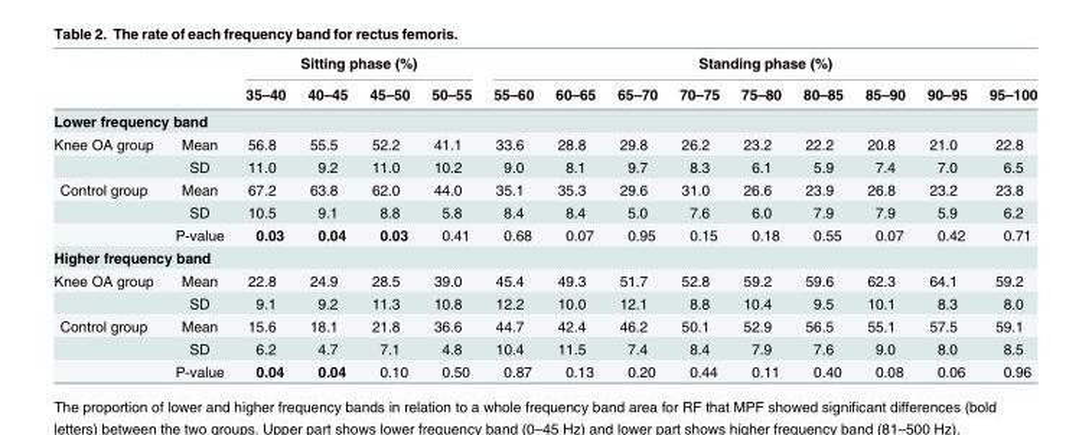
<table><thead><tr><td rowspan="2"></td><td rowspan="2"></td><td colspan="4">Sitting phase (%)</td><td colspan="9">Standing phase (%)</td></tr><tr><td>35–40</td><td>40–45</td><td>45–50</td><td>50–55</td><td>55–60</td><td>60–65</td><td>65–70</td><td>70–75</td><td>75–80</td><td>80–85</td><td>85–90</td><td>90–95</td><td>95–100</td></tr></thead><tbody><tr><td colspan="15">Lower frequency band</td></tr><tr><td rowspan="2">Knee OA group</td><td>Mean</td><td>56.8</td><td>55.5</td><td>52.2</td><td>41.1</td><td>33.6</td><td>28.8</td><td>29.8</td><td>26.2</td><td>23.2</td><td>22.2</td><td>20.8</td><td>21.0</td><td>22.8</td></tr><tr><td>SD</td><td>11.0</td><td>9.2</td><td>11.0</td><td>10.2</td><td>9.0</td><td>8.1</td><td>9.7</td><td>8.3</td><td>6.1</td><td>5.9</td><td>7.4</td><td>7.0</td><td>6.5</td></tr><tr><td rowspan="3">Control group</td><td>Mean</td><td>67.2</td><td>63.8</td><td>62.0</td><td>44.0</td><td>35.1</td><td>35.3</td><td>29.6</td><td>31.0</td><td>26.6</td><td>23.9</td><td>26.8</td><td>23.2</td><td>23.8</td></tr><tr><td>SD</td><td>10.5</td><td>9.1</td><td>8.8</td><td>5.8</td><td>8.4</td><td>8.4</td><td>5.0</td><td>7.6</td><td>6.0</td><td>7.9</td><td>7.9</td><td>5.9</td><td>6.2</td></tr><tr><td>P-value</td><td>0.03</td><td>0.04</td><td>0.03</td><td>0.41</td><td>0.68</td><td>0.07</td><td>0.95</td><td>0.15</td><td>0.18</td><td>0.55</td><td>0.07</td><td>0.42</td><td>0.71</td></tr><tr><td colspan="15">Higher frequency band</td></tr><tr><td rowspan="2">Knee OA group</td><td>Mean</td><td>22.8</td><td>24.9</td><td>28.5</td><td>39.0</td><td>45.4</td><td>49.3</td><td>51.7</td><td>52.8</td><td>59.2</td><td>59.6</td><td>62.3</td><td>64.1</td><td>59.2</td></tr><tr><td>SD</td><td>9.1</td><td>9.2</td><td>11.3</td><td>10.8</td><td>12.2</td><td>10.0</td><td>12.1</td><td>8.8</td><td>10.4</td><td>9.5</td><td>10.1</td><td>8.3</td><td>8.0</td></tr><tr><td rowspan="3">Control group</td><td>Mean</td><td>15.6</td><td>18.1</td><td>21.8</td><td>36.6</td><td>44.7</td><td>42.4</td><td>46.2</td><td>50.1</td><td>52.9</td><td>56.5</td><td>55.1</td><td>57.5</td><td>59.1</td></tr><tr><td>SD</td><td>6.2</td><td>4.7</td><td>7.1</td><td>4.8</td><td>10.4</td><td>11.5</td><td>7.4</td><td>8.4</td><td>7.9</td><td>7.6</td><td>9.0</td><td>8.0</td><td>8.5</td></tr><tr><td>P-value</td><td>0.04</td><td>0.04</td><td>0.10</td><td>0.50</td><td>0.87</td><td>0.13</td><td>0.20</td><td>0.44</td><td>0.11</td><td>0.40</td><td>0.08</td><td>0.06</td><td>0.96</td></tr></tbody></table>